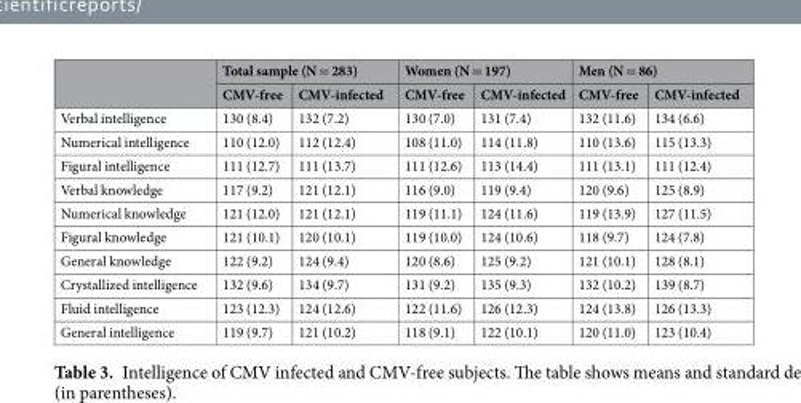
<table><thead><tr><td rowspan="2"></td><td colspan="2">Total sample (N = 283)</td><td colspan="2">Women (N = 197)</td><td colspan="2">Men (N = 86)</td></tr><tr><td>CMV-free</td><td>CMV-infected</td><td>CMV-free</td><td>CMV-infected</td><td>CMV-free</td><td>CMV-infected</td></tr></thead><tbody><tr><td>Verbal intelligence</td><td>130 (8.4)</td><td>132 (7.2)</td><td>130 (7.0)</td><td>131 (7.4)</td><td>132 (11.6)</td><td>134 (6.6)</td></tr><tr><td>Numerical intelligence</td><td>110 (12.0)</td><td>112 (12.4)</td><td>108 (11.0)</td><td>114 (11.8)</td><td>110 (13.6)</td><td>115 (13.3)</td></tr><tr><td>Figural intelligence</td><td>111 (12.7)</td><td>111 (13.7)</td><td>111 (12.6)</td><td>113 (14.4)</td><td>111 (13.1)</td><td>111 (12.4)</td></tr><tr><td>Verbal knowledge</td><td>117 (9.2)</td><td>121 (12.1)</td><td>116 (9.0)</td><td>119 (9.4)</td><td>120 (9.6)</td><td>125 (8.9)</td></tr><tr><td>Numerical knowledge</td><td>121 (12.0)</td><td>121 (12.1)</td><td>119 (11.1)</td><td>124 (11.6)</td><td>119 (13.9)</td><td>127 (11.5)</td></tr><tr><td>Figural knowledge</td><td>121 (10.1)</td><td>120 (10.1)</td><td>119 (10.0)</td><td>124 (10.6)</td><td>118 (9.7)</td><td>124 (7.8)</td></tr><tr><td>General knowledge</td><td>122 (9.2)</td><td>124 (9.4)</td><td>120 (8.6)</td><td>125 (9.2)</td><td>121 (10.1)</td><td>128 (8.1)</td></tr><tr><td>Crystallized intelligence</td><td>132 (9.6)</td><td>134 (9.7)</td><td>131 (9.2)</td><td>135 (9.3)</td><td>132 (10.2)</td><td>139 (8.7)</td></tr><tr><td>Fluid intelligence</td><td>123 (12.3)</td><td>124 (12.6)</td><td>122 (11.6)</td><td>126 (12.3)</td><td>124 (13.8)</td><td>126 (13.3)</td></tr><tr><td>General intelligence</td><td>119 (9.7)</td><td>121 (10.2)</td><td>118 (9.1)</td><td>122 (10.1)</td><td>120 (11.0)</td><td>123 (10.4)</td></tr></tbody></table>